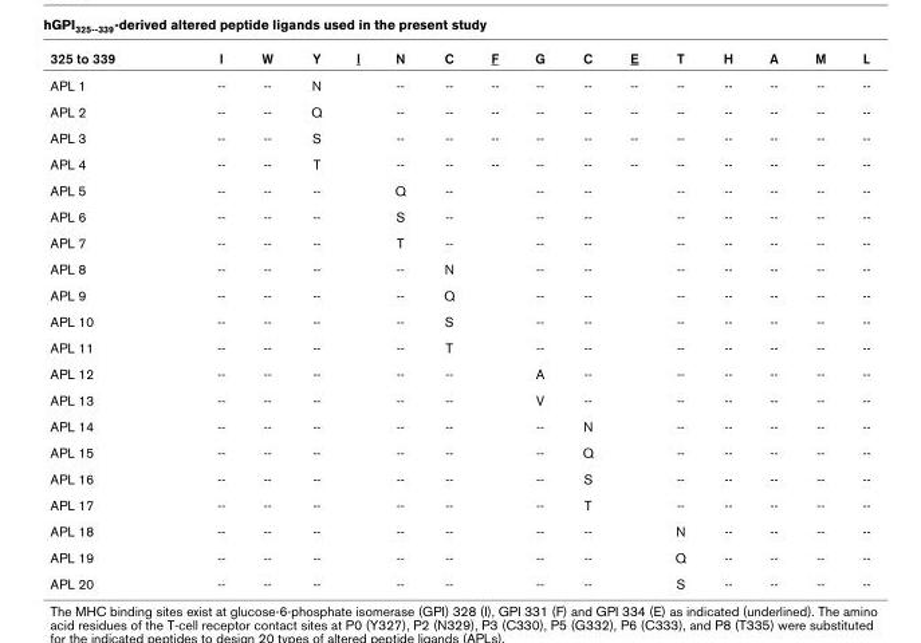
<table><thead><tr><td>325 to 339</td><td>I</td><td>W</td><td>Y</td><td>I</td><td>N</td><td>C</td><td>F</td><td>G</td><td>C</td><td>E</td><td>T</td><td>H</td><td>A</td><td>M</td><td>L</td></tr></thead><tbody><tr><td>APL 1</td><td>--</td><td>--</td><td>N</td><td></td><td>--</td><td>--</td><td>--</td><td>--</td><td>--</td><td>--</td><td>--</td><td>--</td><td>--</td><td>--</td><td>--</td></tr><tr><td>APL 2</td><td>--</td><td>--</td><td>Q</td><td></td><td>--</td><td>--</td><td>--</td><td>--</td><td>--</td><td>--</td><td>--</td><td>--</td><td>--</td><td>--</td><td>--</td></tr><tr><td>APL 3</td><td>--</td><td>--</td><td>S</td><td></td><td>--</td><td>--</td><td>--</td><td>--</td><td>--</td><td>--</td><td>--</td><td>--</td><td>--</td><td>--</td><td>--</td></tr><tr><td>APL 4</td><td>--</td><td>--</td><td>T</td><td></td><td>--</td><td>--</td><td>--</td><td>--</td><td>--</td><td>--</td><td>--</td><td>--</td><td>--</td><td>--</td><td>--</td></tr><tr><td>APL 5</td><td>--</td><td>--</td><td>--</td><td></td><td>Q</td><td>--</td><td></td><td>--</td><td>--</td><td></td><td>--</td><td>--</td><td>--</td><td>--</td><td>--</td></tr><tr><td>APL 6</td><td>--</td><td>--</td><td>--</td><td></td><td>S</td><td>--</td><td></td><td>--</td><td>--</td><td></td><td>--</td><td>--</td><td>--</td><td>--</td><td>--</td></tr><tr><td>APL 7</td><td>--</td><td>--</td><td>--</td><td></td><td>T</td><td>--</td><td></td><td>--</td><td>--</td><td></td><td>--</td><td>--</td><td>--</td><td>--</td><td>--</td></tr><tr><td>APL 8</td><td>--</td><td>--</td><td>--</td><td></td><td>--</td><td>N</td><td></td><td>--</td><td>--</td><td></td><td>--</td><td>--</td><td>--</td><td>--</td><td>--</td></tr><tr><td>APL 9</td><td>--</td><td>--</td><td>--</td><td></td><td>--</td><td>Q</td><td></td><td>--</td><td>--</td><td></td><td>--</td><td>--</td><td>--</td><td>--</td><td>--</td></tr><tr><td>APL 10</td><td>--</td><td>--</td><td>--</td><td></td><td>--</td><td>S</td><td></td><td>--</td><td>--</td><td></td><td>--</td><td>--</td><td>--</td><td>--</td><td>--</td></tr><tr><td>APL 11</td><td>--</td><td>--</td><td>--</td><td></td><td>--</td><td>T</td><td></td><td>--</td><td>--</td><td></td><td>--</td><td>--</td><td>--</td><td>--</td><td>--</td></tr><tr><td>APL 12</td><td>--</td><td>--</td><td>--</td><td></td><td>--</td><td>--</td><td></td><td>A</td><td>--</td><td></td><td>--</td><td>--</td><td>--</td><td>--</td><td>--</td></tr><tr><td>APL 13</td><td>--</td><td>--</td><td>--</td><td></td><td>--</td><td>--</td><td></td><td>V</td><td>--</td><td></td><td>--</td><td>--</td><td>--</td><td>--</td><td>--</td></tr><tr><td>APL 14</td><td>--</td><td>--</td><td>--</td><td></td><td>--</td><td>--</td><td></td><td>--</td><td>N</td><td></td><td>--</td><td>--</td><td>--</td><td>--</td><td>--</td></tr><tr><td>APL 15</td><td>--</td><td>--</td><td>--</td><td></td><td>--</td><td>--</td><td></td><td>--</td><td>Q</td><td></td><td>--</td><td>--</td><td>--</td><td>--</td><td>--</td></tr><tr><td>APL 16</td><td>--</td><td>--</td><td>--</td><td></td><td>--</td><td>--</td><td></td><td>--</td><td>S</td><td></td><td>--</td><td>--</td><td>--</td><td>--</td><td>--</td></tr><tr><td>APL 17</td><td>--</td><td>--</td><td>--</td><td></td><td>--</td><td>--</td><td></td><td>--</td><td>T</td><td></td><td>--</td><td>--</td><td>--</td><td>--</td><td>--</td></tr><tr><td>APL 18</td><td>--</td><td>--</td><td>--</td><td></td><td>--</td><td>--</td><td></td><td>--</td><td>--</td><td></td><td>N</td><td>--</td><td>--</td><td>--</td><td>--</td></tr><tr><td>APL 19</td><td>--</td><td>--</td><td>--</td><td></td><td>--</td><td>--</td><td></td><td>--</td><td>--</td><td></td><td>Q</td><td>--</td><td>--</td><td>--</td><td>--</td></tr><tr><td>APL 20</td><td>--</td><td>--</td><td>--</td><td></td><td>--</td><td>--</td><td></td><td>--</td><td>--</td><td></td><td>S</td><td>--</td><td>--</td><td>--</td><td>--</td></tr></tbody></table>